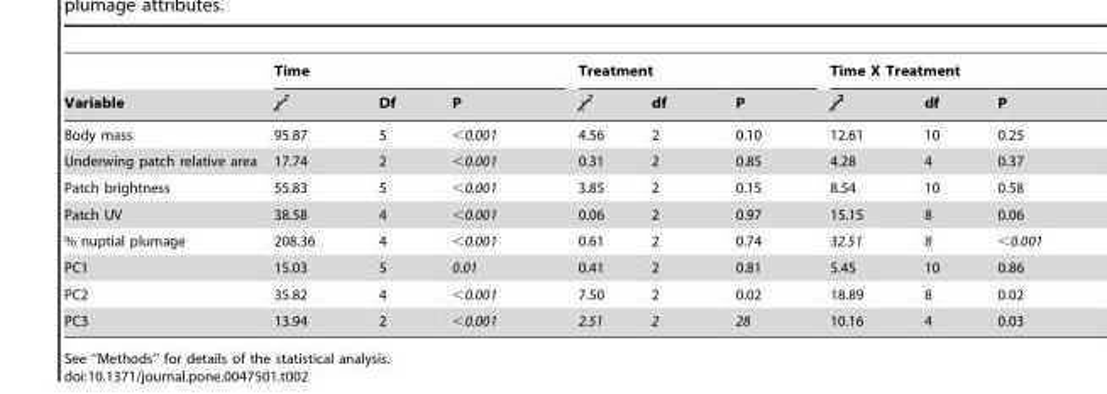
<table><thead><tr><td rowspan="2">Variable</td><td colspan="3">Time</td><td colspan="3">Treatment</td><td colspan="3">Time X Treatment</td></tr><tr><td>χ2</td><td>Df</td><td>P</td><td>χ<sup>2</sup></td><td>df</td><td>P</td><td>χ<sup>2</sup></td><td>df</td><td>P</td></tr></thead><tbody><tr><td>Body mass</td><td>95.87</td><td>5</td><td>&lt;0.001</td><td>4.56</td><td>2</td><td>0.10</td><td>12.61</td><td>10</td><td>0.25</td></tr><tr><td>Underwing patch relative area</td><td>17.74</td><td>2</td><td>&lt;0.001</td><td>0.31</td><td>2</td><td>0.85</td><td>4.28</td><td>4</td><td>0.37</td></tr><tr><td>Patch brightness</td><td>55.83</td><td>5</td><td>&lt;0.001</td><td>3.85</td><td>2</td><td>0.15</td><td>8.54</td><td>10</td><td>0.58</td></tr><tr><td>Patch UV</td><td>38.58</td><td>4</td><td>&lt;0.001</td><td>0.06</td><td>2</td><td>0.97</td><td>15.15</td><td>8</td><td>0.06</td></tr><tr><td>% nuptial plumage</td><td>208.36</td><td>4</td><td>&lt;0.001</td><td>0.61</td><td>2</td><td>0.74</td><td>32.51</td><td>8</td><td>&lt;0.001</td></tr><tr><td>PC1</td><td>15.03</td><td>5</td><td>0.01</td><td>0.41</td><td>2</td><td>0.81</td><td>5.45</td><td>10</td><td>0.86</td></tr><tr><td>PC2</td><td>35.82</td><td>4</td><td>&lt;0.001</td><td>7.50</td><td>2</td><td>0.02</td><td>18.89</td><td>8</td><td>0.02</td></tr><tr><td>PC3</td><td>13.94</td><td>2</td><td>&lt;0.001</td><td>2.51</td><td>2</td><td>28</td><td>10.16</td><td>4</td><td>0.03</td></tr></tbody></table>